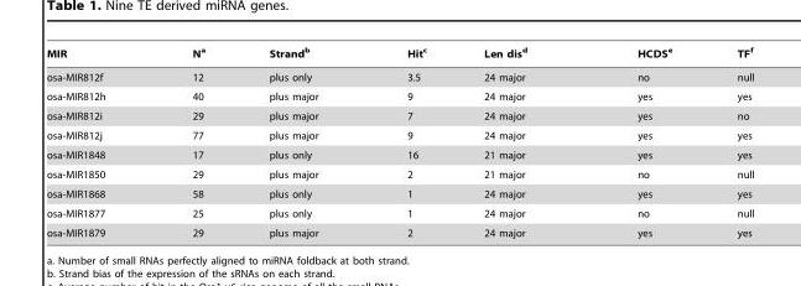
<table><thead><tr><td>MIR</td><td>N<sup>a</sup></td><td>Strand<sup>b</sup></td><td>Hit<sup>c</sup></td><td>Len dis<sup>d</sup></td><td>HCDS<sup>e</sup></td><td>TF<sup>f</sup></td></tr></thead><tbody><tr><td>osa-MIR812f</td><td>12</td><td>plus only</td><td>3.5</td><td>24 major</td><td>no</td><td>null</td></tr><tr><td>osa-MIR812h</td><td>40</td><td>plus major</td><td>9</td><td>24 major</td><td>yes</td><td>yes</td></tr><tr><td>osa-MIR812i</td><td>29</td><td>plus major</td><td>7</td><td>24 major</td><td>yes</td><td>no</td></tr><tr><td>osa-MIR812j</td><td>77</td><td>plus major</td><td>9</td><td>24 major</td><td>yes</td><td>yes</td></tr><tr><td>osa-MIR1848</td><td>17</td><td>plus only</td><td>16</td><td>21 major</td><td>yes</td><td>yes</td></tr><tr><td>osa-MIR1850</td><td>29</td><td>plus major</td><td>2</td><td>21 major</td><td>no</td><td>null</td></tr><tr><td>osa-MIR1868</td><td>58</td><td>plus only</td><td>1</td><td>24 major</td><td>yes</td><td>yes</td></tr><tr><td>osa-MIR1877</td><td>25</td><td>plus only</td><td>1</td><td>24 major</td><td>no</td><td>null</td></tr><tr><td>osa-MIR1879</td><td>29</td><td>plus major</td><td>2</td><td>24 major</td><td>yes</td><td>yes</td></tr></tbody></table>